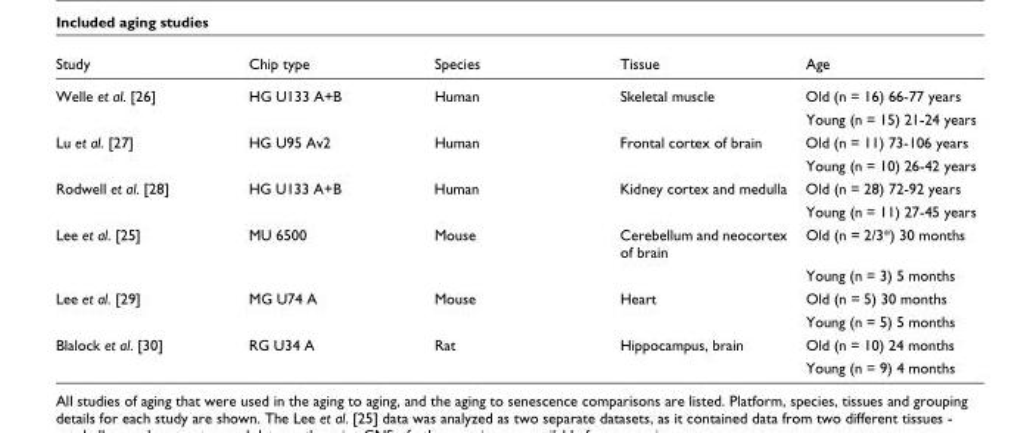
<table><thead><tr><td>Study</td><td>Chip type</td><td>Species</td><td>Tissue</td><td>Age</td></tr></thead><tbody><tr><td rowspan="2">Welle et al. [26]</td><td>HG U133 A+B</td><td>Human</td><td>Skeletal muscle</td><td>Old (n = 16) 66-77 years</td></tr><tr><td></td><td></td><td></td><td>Young (n = 15) 21-24 years</td></tr><tr><td rowspan="2">Lu et al. [27]</td><td>HG U95 Av2</td><td>Human</td><td>Frontal cortex of brain</td><td>Old (n = 11) 73-106 years</td></tr><tr><td></td><td></td><td></td><td>Young (n = 10) 26-42 years</td></tr><tr><td rowspan="2">Rodwell et al. [28]</td><td>HG U133 A+B</td><td>Human</td><td>Kidney cortex and medulla</td><td>Old (n = 28) 72-92 years</td></tr><tr><td></td><td></td><td></td><td>Young (n = 11) 27-45 years</td></tr><tr><td rowspan="2">Lee et al. [25]</td><td>MU 6500</td><td>Mouse</td><td>Cerebellum and neocortex of brain</td><td>Old (n = 2/3*) 30 months</td></tr><tr><td></td><td></td><td></td><td>Young (n = 3) 5 months</td></tr><tr><td rowspan="2">Lee et al. [29]</td><td>MG U74 A</td><td>Mouse</td><td>Heart</td><td>Old (n = 5) 30 months</td></tr><tr><td></td><td></td><td></td><td>Young (n = 5) 5 months</td></tr><tr><td rowspan="2">Blalock et al. [30]</td><td>RG U34 A</td><td>Rat</td><td>Hippocampus, brain</td><td>Old (n = 10) 24 months</td></tr><tr><td></td><td></td><td></td><td>Young (n = 9) 4 months</td></tr></tbody></table>